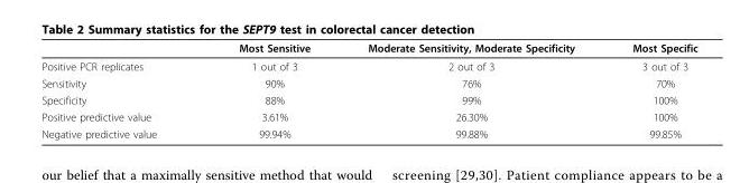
<table><thead><tr><td></td><td>Most Sensitive</td><td>Moderate Sensitivity, Moderate Specificity</td><td>Most Specific</td></tr></thead><tbody><tr><td>Positive PCR replicates</td><td>1 out of 3</td><td>2 out of 3</td><td>3 out of 3</td></tr><tr><td>Sensitivity</td><td>90%</td><td>76%</td><td>70%</td></tr><tr><td>Specificity</td><td>88%</td><td>99%</td><td>100%</td></tr><tr><td>Positive predictive value</td><td>3.61%</td><td>26.30%</td><td>100%</td></tr><tr><td>Negative predictive value</td><td>99.94%</td><td>99.88%</td><td>99.85%</td></tr></tbody></table>